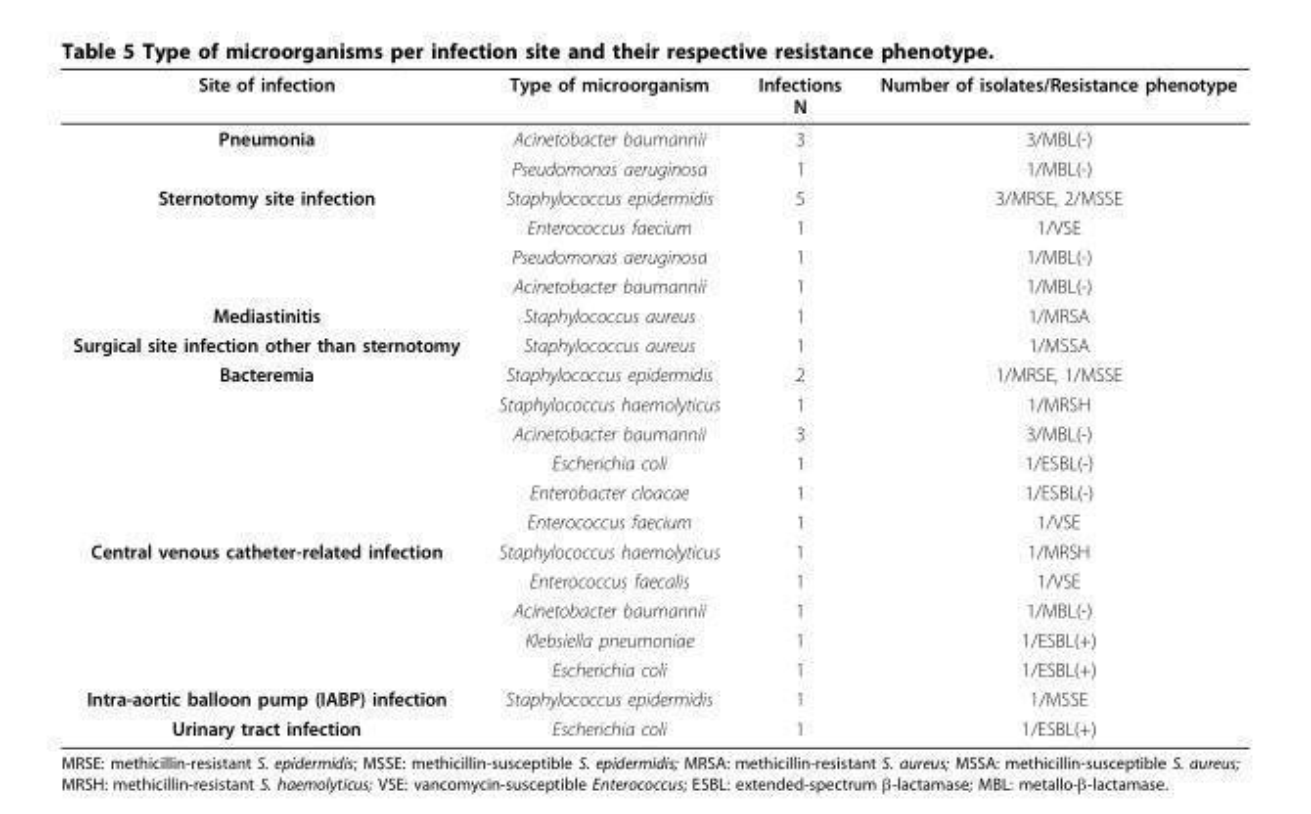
<table><thead><tr><td>Site of infection</td><td>Type of microorganism</td><td>Infections Ν</td><td>Number of isolates/Resistance phenotype</td></tr></thead><tbody><tr><td rowspan="2">Pneumonia</td><td>Acinetobacter baumannii</td><td>3</td><td>3/MBL(-)</td></tr><tr><td>Pseudomonas aeruginosa</td><td>1</td><td>1/MBL(-)</td></tr><tr><td rowspan="4">Sternotomy site infection</td><td>Staphylococcus epidermidis</td><td>5</td><td>3/MRSE, 2/MSSE</td></tr><tr><td>Enterococcus faecium</td><td>1</td><td>1/VSE</td></tr><tr><td>Pseudomonas aeruginosa</td><td>1</td><td>1/MBL(-)</td></tr><tr><td>Acinetobacter baumannii</td><td>1</td><td>1/MBL(-)</td></tr><tr><td>Mediastinitis</td><td>Staphylococcus aureus</td><td>1</td><td>1/MRSA</td></tr><tr><td>Surgical site infection other than sternotomy</td><td>Staphylococcus aureus</td><td>1</td><td>1/MSSA</td></tr><tr><td rowspan="6">Bacteremia</td><td>Staphylococcus epidermidis</td><td>2</td><td>1/MRSE, 1/MSSE</td></tr><tr><td>Staphylococcus haemolyticus</td><td>1</td><td>1/MRSH</td></tr><tr><td>Acinetobacter baumannii</td><td>3</td><td>3/MBL(-)</td></tr><tr><td>Escherichia coli</td><td>1</td><td>1/ESBL(-)</td></tr><tr><td>Enterobacter cloacae</td><td>1</td><td>1/ESBL(-)</td></tr><tr><td>Enterococcus faecium</td><td>1</td><td>1/VSE</td></tr><tr><td rowspan="5">Central venous catheter-related infection</td><td>Staphylococcus haemolyticus</td><td>1</td><td>1/MRSH</td></tr><tr><td>Enterococcus faecalis</td><td>1</td><td>1/VSE</td></tr><tr><td>Acinetobacter baumannii</td><td>1</td><td>1/MBL(-)</td></tr><tr><td>Klebsiella pneumoniae</td><td>1</td><td>1/ESBL(+)</td></tr><tr><td>Escherichia coli</td><td>1</td><td>1/ESBL(+)</td></tr><tr><td>Intra-aortic balloon pump (IABP) infection</td><td>Staphylococcus epidermidis</td><td>1</td><td>1/MSSE</td></tr><tr><td>Urinary tract infection</td><td>Escherichia coli</td><td>1</td><td>1/ESBL(+)</td></tr></tbody></table>